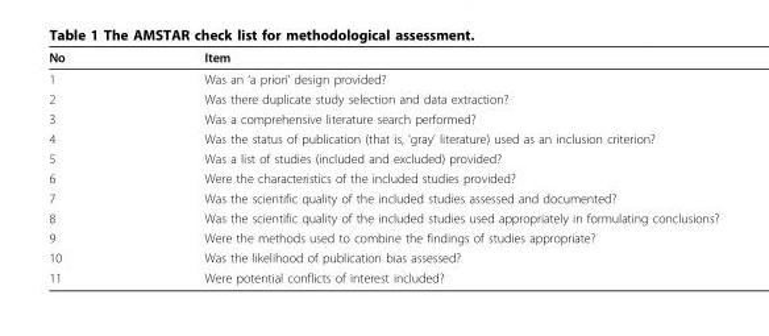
<table><thead><tr><td>No</td><td>Item</td></tr></thead><tbody><tr><td>1</td><td>Was an ‘a priori’ design provided?</td></tr><tr><td>2</td><td>Was there duplicate study selection and data extraction?</td></tr><tr><td>3</td><td>Was a comprehensive literature search performed?</td></tr><tr><td>4</td><td>Was the status of publication (that is, ‘gray’ literature) used as an inclusion criterion?</td></tr><tr><td>5</td><td>Was a list of studies (included and excluded) provided?</td></tr><tr><td>6</td><td>Were the characteristics of the included studies provided?</td></tr><tr><td>7</td><td>Was the scientific quality of the included studies assessed and documented?</td></tr><tr><td>8</td><td>Was the scientific quality of the included studies used appropriately in formulating conclusions?</td></tr><tr><td>9</td><td>Were the methods used to combine the findings of studies appropriate?</td></tr><tr><td>10</td><td>Was the likelihood of publication bias assessed?</td></tr><tr><td>11</td><td>Were potential conflicts of interest included?</td></tr></tbody></table>